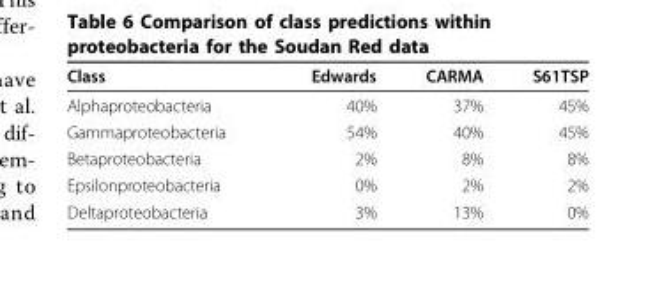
<table><thead><tr><td>Class</td><td>Edwards</td><td>CARMA</td><td>S61TSP</td></tr></thead><tbody><tr><td>Alphaproteobacteria</td><td>40%</td><td>37%</td><td>45%</td></tr><tr><td>Gammaproteobacteria</td><td>54%</td><td>40%</td><td>45%</td></tr><tr><td>Betaproteobacteria</td><td>2%</td><td>8%</td><td>8%</td></tr><tr><td>Epsilonproteobacteria</td><td>0%</td><td>2%</td><td>2%</td></tr><tr><td>Deltaproteobacteria</td><td>3%</td><td>13%</td><td>0%</td></tr></tbody></table>